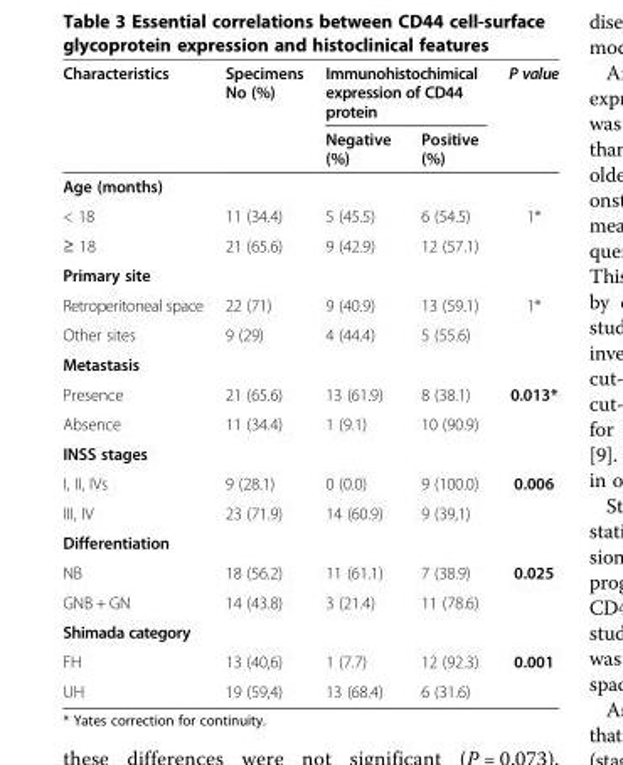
<table><thead><tr><td rowspan="2">Characteristics</td><td rowspan="2">Specimens No (%)</td><td colspan="2">Immunohistochimical expression of CD44 protein</td><td rowspan="2">P value</td></tr><tr><td>Negative (%)</td><td>Positive (%)</td></tr></thead><tbody><tr><td colspan="5">Age (months)</td></tr><tr><td>&lt; 18</td><td>11 (34.4)</td><td>5 (45.5)</td><td>6 (54.5)</td><td>1*</td></tr><tr><td>≥ 18</td><td>21 (65.6)</td><td>9 (42.9)</td><td>12 (57.1)</td><td></td></tr><tr><td colspan="5">Primary site</td></tr><tr><td>Retroperitoneal space</td><td>22 (71)</td><td>9 (40.9)</td><td>13 (59.1)</td><td>1*</td></tr><tr><td>Other sites</td><td>9 (29)</td><td>4 (44.4)</td><td>5 (55.6)</td><td></td></tr><tr><td colspan="5">Metastasis</td></tr><tr><td>Presence</td><td>21 (65.6)</td><td>13 (61.9)</td><td>8 (38.1)</td><td>0.013*</td></tr><tr><td>Absence</td><td>11 (34.4)</td><td>1 (9.1)</td><td>10 (90.9)</td><td></td></tr><tr><td colspan="5">INSS stages</td></tr><tr><td>I, II, IVs</td><td>9 (28.1)</td><td>0 (0.0)</td><td>9 (100.0)</td><td>0.006</td></tr><tr><td>III, IV</td><td>23 (71.9)</td><td>14 (60.9)</td><td>9 (39,1)</td><td></td></tr><tr><td colspan="5">Differentiation</td></tr><tr><td>NB</td><td>18 (56.2)</td><td>11 (61.1)</td><td>7 (38.9)</td><td>0.025</td></tr><tr><td>GNB + GN</td><td>14 (43.8)</td><td>3 (21.4)</td><td>11 (78.6)</td><td></td></tr><tr><td colspan="5">Shimada category</td></tr><tr><td>FH</td><td>13 (40,6)</td><td>1 (7.7)</td><td>12 (92.3)</td><td>0.001</td></tr><tr><td>UH</td><td>19 (59,4)</td><td>13 (68.4)</td><td>6 (31.6)</td><td></td></tr></tbody></table>